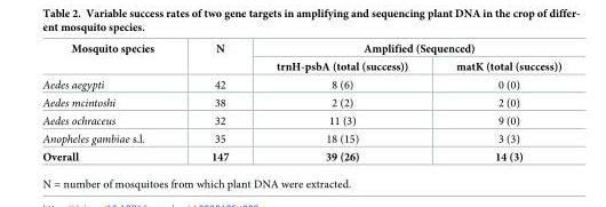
<table><thead><tr><td rowspan="2">Mosquito species</td><td rowspan="2">N</td><td colspan="2">Amplified (Sequenced)</td></tr><tr><td>trnH-psbA (total (success))</td><td>matK (total (success))</td></tr></thead><tbody><tr><td>Aedes aegypti</td><td>42</td><td>8 (6)</td><td>0 (0)</td></tr><tr><td>Aedes mcintoshi</td><td>38</td><td>2 (2)</td><td>2 (0)</td></tr><tr><td>Aedes ochraceus</td><td>32</td><td>11 (3)</td><td>9 (0)</td></tr><tr><td>Anopheles gambiae s.l.</td><td>35</td><td>18 (15)</td><td>3 (3)</td></tr><tr><td>Overall</td><td>147</td><td>39 (26)</td><td>14 (3)</td></tr></tbody></table>